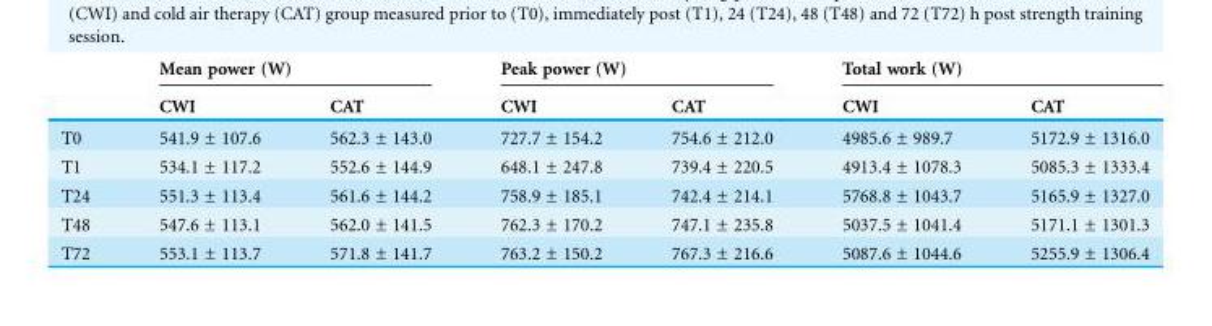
<table><thead><tr><td rowspan="2"></td><td colspan="2">Mean power (W)</td><td colspan="2">Peak power (W)</td><td colspan="2">Total work (W)</td></tr><tr><td>CWI</td><td>CAT</td><td>CWI</td><td>CAT</td><td>CWI</td><td>CAT</td></tr></thead><tbody><tr><td>T0</td><td>541.9 ± 107.6</td><td>562.3 ± 143.0</td><td>727.7 ± 154.2</td><td>754.6 ± 212.0</td><td>4985.6 ± 989.7</td><td>5172.9 ± 1316.0</td></tr><tr><td>T1</td><td>534.1 ± 117.2</td><td>552.6 ± 144.9</td><td>648.1 ± 247.8</td><td>739.4 ± 220.5</td><td>4913.4 ± 1078.3</td><td>5085.3 ± 1333.4</td></tr><tr><td>T24</td><td>551.3 ± 113.4</td><td>561.6 ± 144.2</td><td>758.9 ± 185.1</td><td>742.4 ± 214.1</td><td>5768.8 ± 1043.7</td><td>5165.9 ± 1327.0</td></tr><tr><td>T48</td><td>547.6 ± 113.1</td><td>562.0 ± 141.5</td><td>762.3 ± 170.2</td><td>747.1 ± 235.8</td><td>5037.5 ± 1041.4</td><td>5171.1 ± 1301.3</td></tr><tr><td>T72</td><td>553.1 ± 113.7</td><td>571.8 ± 141.7</td><td>763.2 ± 150.2</td><td>767.3 ± 216.6</td><td>5087.6 ± 1044.6</td><td>5255.9 ± 1306.4</td></tr></tbody></table>